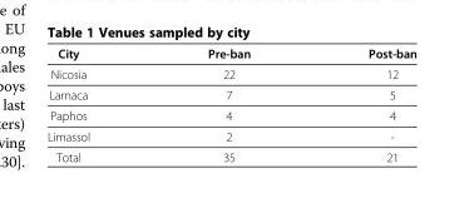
<table><thead><tr><td>City</td><td>Pre-ban</td><td>Post-ban</td></tr></thead><tbody><tr><td>Nicosia</td><td>22</td><td>12</td></tr><tr><td>Larnaca</td><td>7</td><td>5</td></tr><tr><td>Paphos</td><td>4</td><td>4</td></tr><tr><td>Limassol</td><td>2</td><td>-</td></tr><tr><td>Total</td><td>35</td><td>21</td></tr></tbody></table>